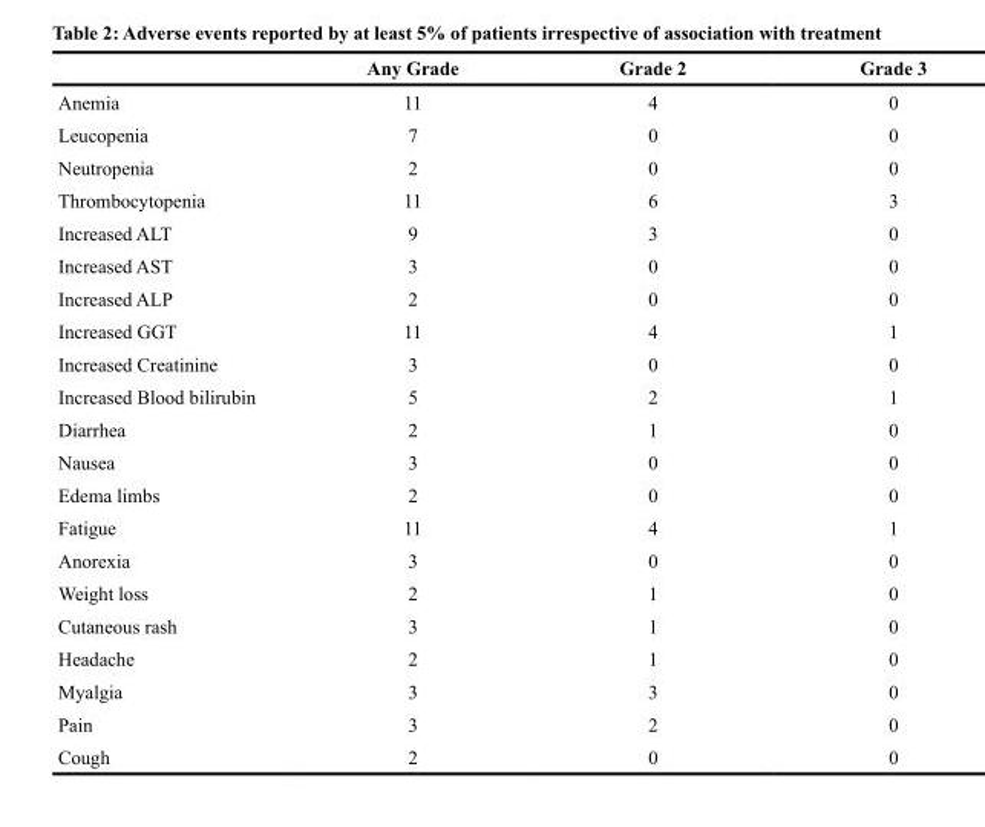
<table><thead><tr><td></td><td>Any Grade</td><td>Grade 2</td><td>Grade 3</td></tr></thead><tbody><tr><td>Anemia</td><td>11</td><td>4</td><td>0</td></tr><tr><td>Leucopenia</td><td>7</td><td>0</td><td>0</td></tr><tr><td>Neutropenia</td><td>2</td><td>0</td><td>0</td></tr><tr><td>Thrombocytopenia</td><td>11</td><td>6</td><td>3</td></tr><tr><td>Increased ALT</td><td>9</td><td>3</td><td>0</td></tr><tr><td>Increased AST</td><td>3</td><td>0</td><td>0</td></tr><tr><td>Increased ALP</td><td>2</td><td>0</td><td>0</td></tr><tr><td>Increased GGT</td><td>11</td><td>4</td><td>1</td></tr><tr><td>Increased Creatinine</td><td>3</td><td>0</td><td>0</td></tr><tr><td>Increased Blood bilirubin</td><td>5</td><td>2</td><td>1</td></tr><tr><td>Diarrhea</td><td>2</td><td>1</td><td>0</td></tr><tr><td>Nausea</td><td>3</td><td>0</td><td>0</td></tr><tr><td>Edema limbs</td><td>2</td><td>0</td><td>0</td></tr><tr><td>Fatigue</td><td>11</td><td>4</td><td>1</td></tr><tr><td>Anorexia</td><td>3</td><td>0</td><td>0</td></tr><tr><td>Weight loss</td><td>2</td><td>1</td><td>0</td></tr><tr><td>Cutaneous rash</td><td>3</td><td>1</td><td>0</td></tr><tr><td>Headache</td><td>2</td><td>1</td><td>0</td></tr><tr><td>Myalgia</td><td>3</td><td>3</td><td>0</td></tr><tr><td>Pain</td><td>3</td><td>2</td><td>0</td></tr><tr><td>Cough</td><td>2</td><td>0</td><td>0</td></tr></tbody></table>